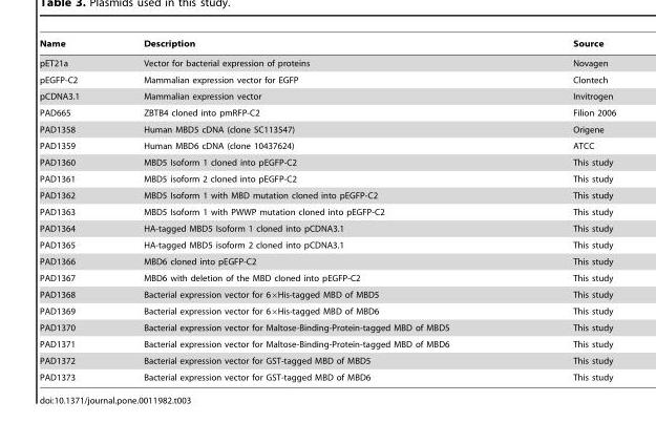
<table><thead><tr><td>Name</td><td>Description</td><td>Source</td></tr></thead><tbody><tr><td>pET21a</td><td>Vector for bacterial expression of proteins</td><td>Novagen</td></tr><tr><td>pEGFP-C2</td><td>Mammalian expression vector for EGFP</td><td>Clontech</td></tr><tr><td>pCDNA3.1</td><td>Mammalian expression vector</td><td>Invitrogen</td></tr><tr><td>PAD665</td><td>ZBTB4 cloned into pmRFP-C2</td><td>Filion 2006</td></tr><tr><td>PAD1358</td><td>Human MBD5 cDNA (clone SC113547)</td><td>Origene</td></tr><tr><td>PAD1359</td><td>Human MBD6 cDNA (clone 10437624)</td><td>ATCC</td></tr><tr><td>PAD1360</td><td>MBD5 Isoform 1 cloned into pEGFP-C2</td><td>This study</td></tr><tr><td>PAD1361</td><td>MBD5 isoform 2 cloned into pEGFP-C2</td><td>This study</td></tr><tr><td>PAD1362</td><td>MBD5 Isoform 1 with MBD mutation cloned into pEGFP-C2</td><td>This study</td></tr><tr><td>PAD1363</td><td>MBD5 Isoform 1 with PWWP mutation cloned into pEGFP-C2</td><td>This study</td></tr><tr><td>PAD1364</td><td>HA-tagged MBD5 Isoform 1 cloned into pCDNA3.1</td><td>This study</td></tr><tr><td>PAD1365</td><td>HA-tagged MBD5 isoform 2 cloned into pCDNA3.1</td><td>This study</td></tr><tr><td>PAD1366</td><td>MBD6 cloned into pEGFP-C2</td><td>This study</td></tr><tr><td>PAD1367</td><td>MBD6 with deletion of the MBD cloned into pEGFP-C2</td><td>This study</td></tr><tr><td>PAD1368</td><td>Bacterial expression vector for 6×His-tagged MBD of MBD5</td><td>This study</td></tr><tr><td>PAD1369</td><td>Bacterial expression vector for 6×His-tagged MBD of MBD6</td><td>This study</td></tr><tr><td>PAD1370</td><td>Bacterial expression vector for Maltose-Binding-Protein-tagged MBD of MBD5</td><td>This study</td></tr><tr><td>PAD1371</td><td>Bacterial expression vector for Maltose-Binding-Protein-tagged MBD of MBD6</td><td>This study</td></tr><tr><td>PAD1372</td><td>Bacterial expression vector for GST-tagged MBD of MBD5</td><td>This study</td></tr><tr><td>PAD1373</td><td>Bacterial expression vector for GST-tagged MBD of MBD6</td><td>This study</td></tr></tbody></table>